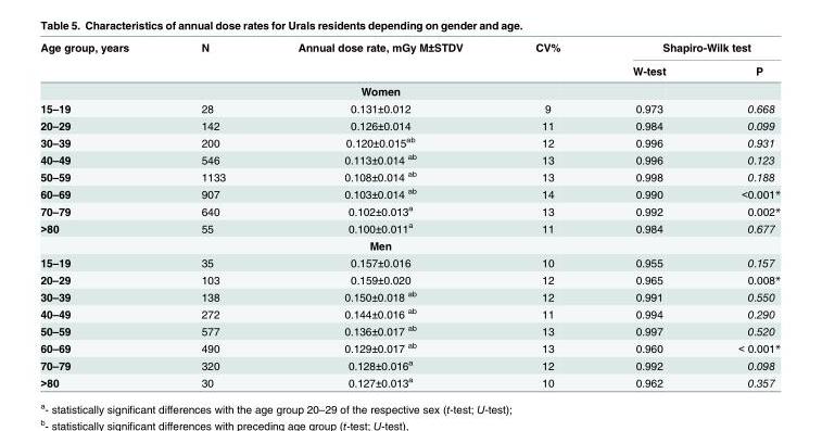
<table><thead><tr><td rowspan="2">Age group, years</td><td rowspan="2">N</td><td rowspan="2">Annual dose rate, mGy M±STDV</td><td rowspan="2">CV%</td><td colspan="2">Shapiro-Wilk test</td></tr><tr><td>W-test</td><td>P</td></tr></thead><tbody><tr><td></td><td></td><td>Women</td><td></td><td></td><td></td></tr><tr><td>15–19</td><td>28</td><td>0.131±0.012</td><td>9</td><td>0.973</td><td>0.668</td></tr><tr><td>20–29</td><td>142</td><td>0.126±0.014</td><td>11</td><td>0.984</td><td>0.099</td></tr><tr><td>30–39</td><td>200</td><td>0.120±0.015<sup>ab</sup></td><td>12</td><td>0.996</td><td>0.931</td></tr><tr><td>40–49</td><td>546</td><td>0.113±0.014 <sup>ab</sup></td><td>13</td><td>0.996</td><td>0.123</td></tr><tr><td>50–59</td><td>1133</td><td>0.108±0.014 <sup>ab</sup></td><td>13</td><td>0.998</td><td>0.188</td></tr><tr><td>60–69</td><td>907</td><td>0.103±0.014 <sup>ab</sup></td><td>14</td><td>0.990</td><td>&lt;0.001*</td></tr><tr><td>70–79</td><td>640</td><td>0.102±0.013<sup>a</sup></td><td>13</td><td>0.992</td><td>0.002*</td></tr><tr><td rowspan="2">&gt;80</td><td>55</td><td>0.100±0.011<sup>a</sup></td><td>11</td><td>0.984</td><td>0.677</td></tr><tr><td></td><td>Men</td><td></td><td></td><td></td></tr><tr><td>15–19</td><td>35</td><td>0.157±0.016</td><td>10</td><td>0.955</td><td>0.157</td></tr><tr><td>20–29</td><td>103</td><td>0.159±0.020</td><td>12</td><td>0.965</td><td>0.008*</td></tr><tr><td>30–39</td><td>138</td><td>0.150±0.018 <sup>ab</sup></td><td>12</td><td>0.991</td><td>0.550</td></tr><tr><td>40–49</td><td>272</td><td>0.144±0.016 <sup>ab</sup></td><td>11</td><td>0.994</td><td>0.290</td></tr><tr><td>50–59</td><td>577</td><td>0.136±0.017 <sup>ab</sup></td><td>13</td><td>0.997</td><td>0.520</td></tr><tr><td>60–69</td><td>490</td><td>0.129±0.017 <sup>ab</sup></td><td>13</td><td>0.960</td><td>&lt; 0.001*</td></tr><tr><td>70–79</td><td>320</td><td>0.128±0.016<sup>a</sup></td><td>12</td><td>0.992</td><td>0.098</td></tr><tr><td>&gt;80</td><td>30</td><td>0.127±0.013<sup>a</sup></td><td>10</td><td>0.962</td><td>0.357</td></tr></tbody></table>